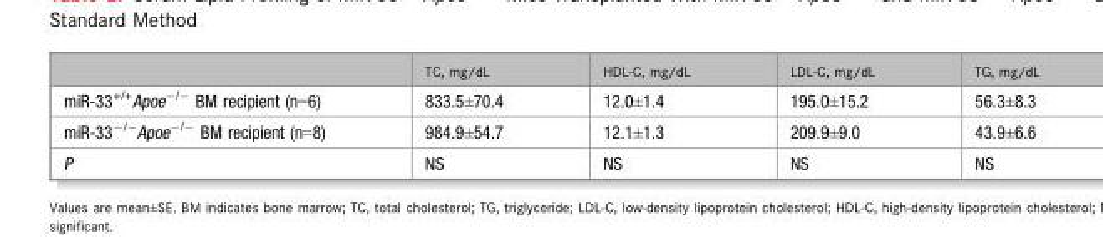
<table><thead><tr><td></td><td>TC, mg/dL</td><td>HDL-C, mg/dL</td><td>LDL-C, mg/dL</td><td>TG, mg/dL</td></tr></thead><tbody><tr><td>miR-33<sup>+/+</sup>Apoe<sup>−/−</sup> BM recipient (n=6)</td><td>833.5±70.4</td><td>12.0±1.4</td><td>195.0±15.2</td><td>56.3±8.3</td></tr><tr><td>miR-33<sup>−/−</sup>Apoe<sup>−/−</sup> BM recipient (n=8)</td><td>984.9±54.7</td><td>12.1±1.3</td><td>209.9±9.0</td><td>43.9±6.6</td></tr><tr><td>P</td><td>NS</td><td>NS</td><td>NS</td><td>NS</td></tr></tbody></table>